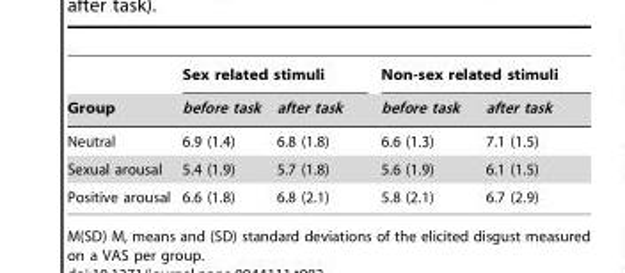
<table><thead><tr><td rowspan="2">Group</td><td colspan="2">Sex related stimuli</td><td colspan="2">Non-sex related stimuli</td></tr><tr><td>before task</td><td>after task</td><td>before task</td><td>after task</td></tr></thead><tbody><tr><td>Neutral</td><td>6.9 (1.4)</td><td>6.8 (1.8)</td><td>6.6 (1.3)</td><td>7.1 (1.5)</td></tr><tr><td>Sexual arousal</td><td>5.4 (1.9)</td><td>5.7 (1.8)</td><td>5.6 (1.9)</td><td>6.1 (1.5)</td></tr><tr><td>Positive arousal</td><td>6.6 (1.8)</td><td>6.8 (2.1)</td><td>5.8 (2.1)</td><td>6.7 (2.9)</td></tr></tbody></table>